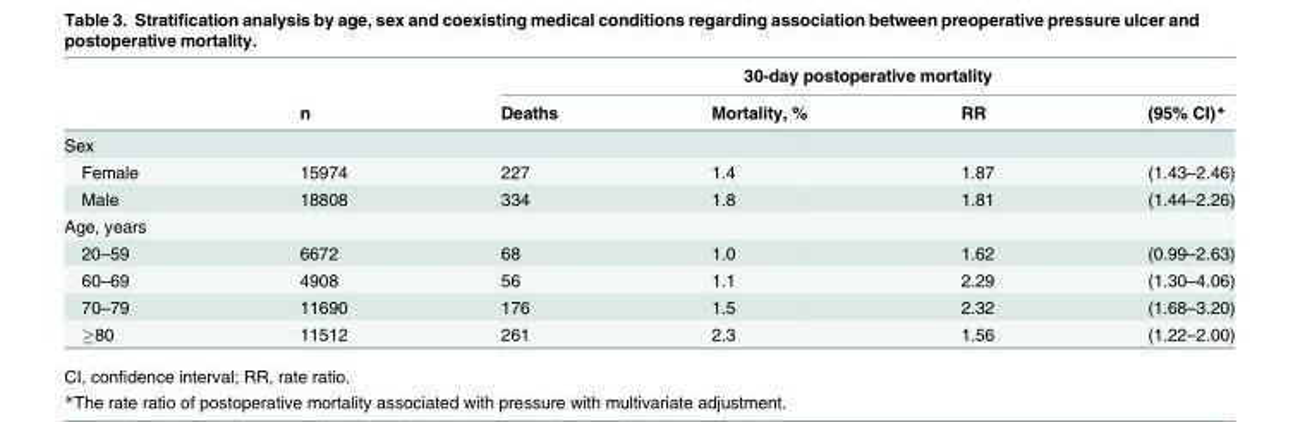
<table><thead><tr><td rowspan="2"></td><td rowspan="2">n</td><td colspan="4">30-day postoperative mortality</td></tr><tr><td>Deaths</td><td>Mortality, %</td><td>RR</td><td>(95% CI)*</td></tr></thead><tbody><tr><td colspan="6">Sex</td></tr><tr><td>Female</td><td>15974</td><td>227</td><td>1.4</td><td>1.87</td><td>(1.43–2.46)</td></tr><tr><td>Male</td><td>18808</td><td>334</td><td>1.8</td><td>1.81</td><td>(1.44–2.26)</td></tr><tr><td colspan="6">Age, years</td></tr><tr><td>20–59</td><td>6672</td><td>68</td><td>1.0</td><td>1.62</td><td>(0.99–2.63)</td></tr><tr><td>60–69</td><td>4908</td><td>56</td><td>1.1</td><td>2.29</td><td>(1.30–4.06)</td></tr><tr><td>70–79</td><td>11690</td><td>176</td><td>1.5</td><td>2.32</td><td>(1.68–3.20)</td></tr><tr><td>≥80</td><td>11512</td><td>261</td><td>2.3</td><td>1.56</td><td>(1.22–2.00)</td></tr></tbody></table>